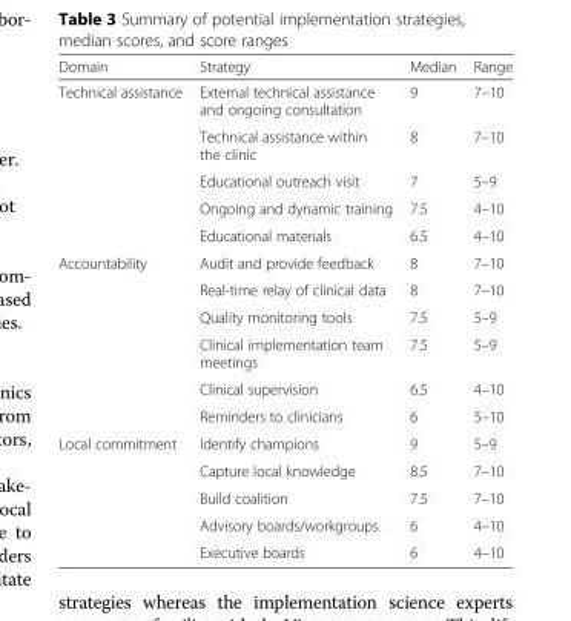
<table><thead><tr><td>Domain</td><td>Strategy</td><td>Median</td><td>Range</td></tr></thead><tbody><tr><td rowspan="5">Technical assistance</td><td>External technical assistance and ongoing consultation</td><td>9</td><td>7–10</td></tr><tr><td>Technical assistance within the clinic</td><td>8</td><td>7–10</td></tr><tr><td>Educational outreach visit</td><td>7</td><td>5–9</td></tr><tr><td>Ongoing and dynamic training</td><td>7.5</td><td>4–10</td></tr><tr><td>Educational materials</td><td>6.5</td><td>4–10</td></tr><tr><td rowspan="6">Accountability</td><td>Audit and provide feedback</td><td>8</td><td>7–10</td></tr><tr><td>Real-time relay of clinical data</td><td>8</td><td>7–10</td></tr><tr><td>Quality monitoring tools</td><td>7.5</td><td>5–9</td></tr><tr><td>Clinical implementation team meetings</td><td>7.5</td><td>5–9</td></tr><tr><td>Clinical supervision</td><td>6.5</td><td>4–10</td></tr><tr><td>Reminders to clinicians</td><td>6</td><td>5–10</td></tr><tr><td rowspan="5">Local commitment</td><td>Identify champions</td><td>9</td><td>5–9</td></tr><tr><td>Capture local knowledge</td><td>8.5</td><td>7–10</td></tr><tr><td>Build coalition</td><td>7.5</td><td>7–10</td></tr><tr><td>Advisory boards/workgroups</td><td>6</td><td>4–10</td></tr><tr><td>Executive boards</td><td>6</td><td>4–10</td></tr></tbody></table>